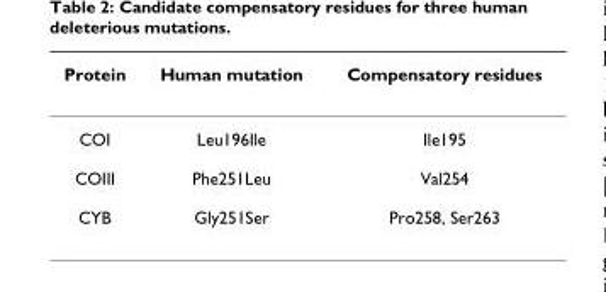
<table><thead><tr><td>Protein</td><td>Human mutation</td><td>Compensatory residues</td></tr></thead><tbody><tr><td>COI</td><td>Leu196Ile</td><td>Ile195</td></tr><tr><td>COIII</td><td>Phe251Leu</td><td>Val254</td></tr><tr><td>CYB</td><td>Gly251Ser</td><td>Pro258, Ser263</td></tr></tbody></table>